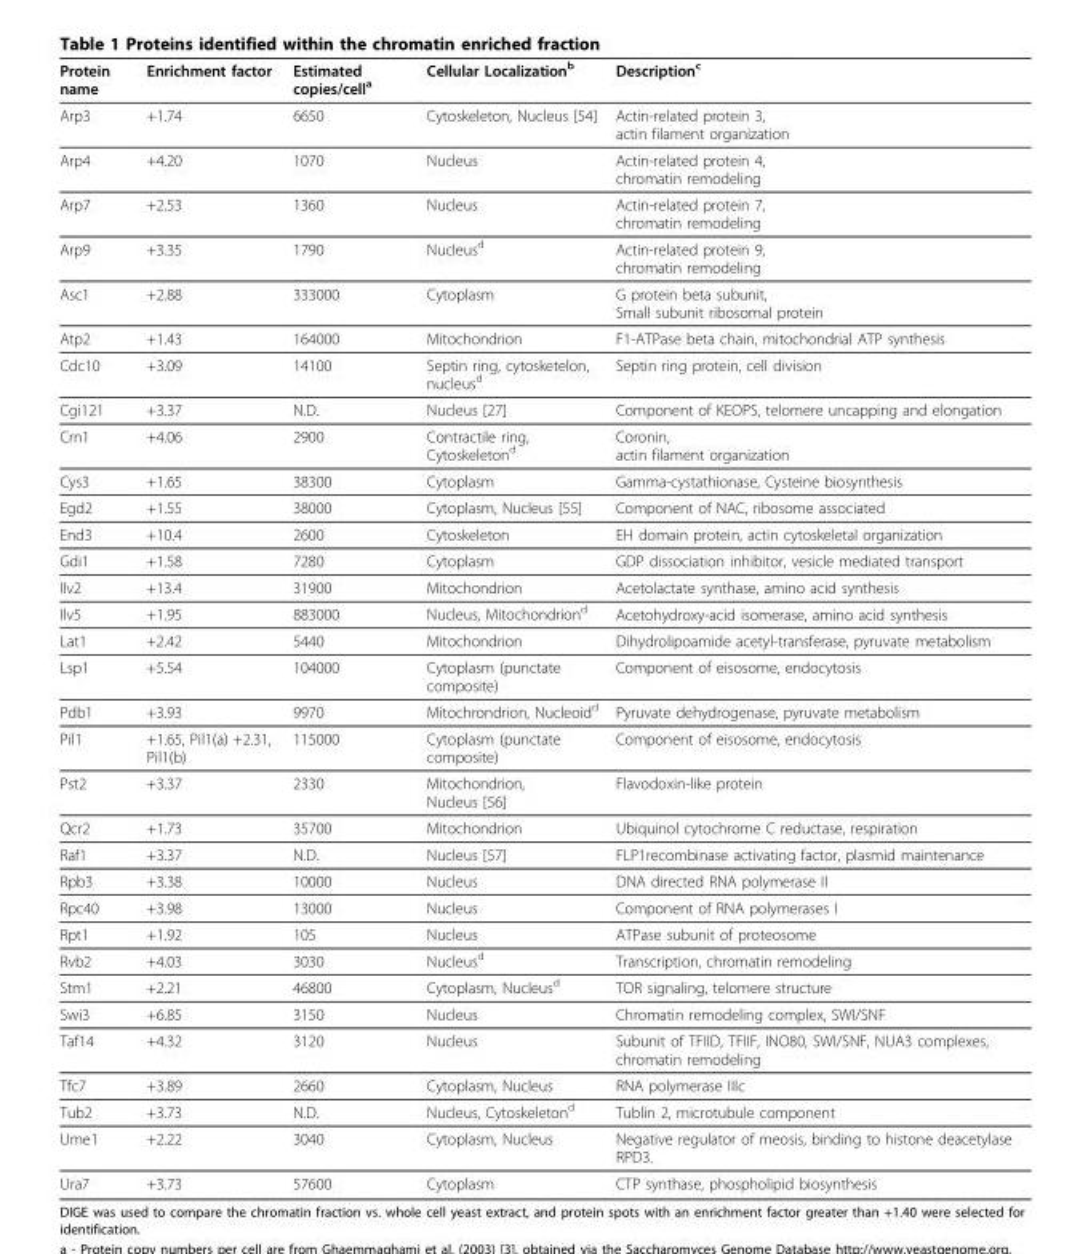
<table><thead><tr><td>Protein name</td><td>Enrichment factor</td><td>Estimated copies/cell<sup>a</sup></td><td>Cellular Localization<sup>b</sup></td><td>Description<sup>c</sup></td></tr></thead><tbody><tr><td>Arp3</td><td>+1.74</td><td>6650</td><td>Cytoskeleton, Nucleus [54]</td><td>Actin-related protein 3, actin filament organization</td></tr><tr><td>Arp4</td><td>+4.20</td><td>1070</td><td>Nucleus</td><td>Actin-related protein 4, chromatin remodeling</td></tr><tr><td>Arp7</td><td>+2.53</td><td>1360</td><td>Nucleus</td><td>Actin-related protein 7, chromatin remodeling</td></tr><tr><td>Arp9</td><td>+3.35</td><td>1790</td><td>Nucleus<sup>d</sup></td><td>Actin-related protein 9, chromatin remodeling</td></tr><tr><td>Asc1</td><td>+2.88</td><td>333000</td><td>Cytoplasm</td><td>G protein beta subunit, Small subunit ribosomal protein</td></tr><tr><td>Atp2</td><td>+1.43</td><td>164000</td><td>Mitochondrion</td><td>F1-ATPase beta chain, mitochondrial ATP synthesis</td></tr><tr><td>Cdc10</td><td>+3.09</td><td>14100</td><td>Septin ring, cytosketelon, nucleus<sup>d</sup></td><td>Septin ring protein, cell division</td></tr><tr><td>Cgi121</td><td>+3.37</td><td>N.D.</td><td>Nucleus [27]</td><td>Component of KEOPS, telomere uncapping and elongation</td></tr><tr><td>Crn1</td><td>+4.06</td><td>2900</td><td>Contractile ring, Cytoskeleton<sup>d</sup></td><td>Coronin, actin filament organization</td></tr><tr><td>Cys3</td><td>+1.65</td><td>38300</td><td>Cytoplasm</td><td>Gamma-cystathionase, Cysteine biosynthesis</td></tr><tr><td>Egd2</td><td>+1.55</td><td>38000</td><td>Cytoplasm, Nucleus [55]</td><td>Component of NAC, ribosome associated</td></tr><tr><td>End3</td><td>+10.4</td><td>2600</td><td>Cytoskeleton</td><td>EH domain protein, actin cytoskeletal organization</td></tr><tr><td>Gdi1</td><td>+1.58</td><td>7280</td><td>Cytoplasm</td><td>GDP dissociation inhibitor, vesicle mediated transport</td></tr><tr><td>Ilv2</td><td>+13.4</td><td>31900</td><td>Mitochondrion</td><td>Acetolactate synthase, amino acid synthesis</td></tr><tr><td>Ilv5</td><td>+1.95</td><td>883000</td><td>Nucleus, Mitochondrion<sup>d</sup></td><td>Acetohydroxy-acid isomerase, amino acid synthesis</td></tr><tr><td>Lat1</td><td>+2.42</td><td>5440</td><td>Mitochondrion</td><td>Dihydrolipoamide acetyl-transferase, pyruvate metabolism</td></tr><tr><td>Lsp1</td><td>+5.54</td><td>104000</td><td>Cytoplasm (punctate composite)</td><td>Component of eisosome, endocytosis</td></tr><tr><td>Pdb1</td><td>+3.93</td><td>9970</td><td>Mitochrondrion, Nucleoid<sup>d</sup></td><td>Pyruvate dehydrogenase, pyruvate metabolism</td></tr><tr><td>Pil1</td><td>+1.65, Pil1(a) +2.31, Pil1(b)</td><td>115000</td><td>Cytoplasm (punctate composite)</td><td>Component of eisosome, endocytosis</td></tr><tr><td>Pst2</td><td>+3.37</td><td>2330</td><td>Mitochondrion, Nucleus [56]</td><td>Flavodoxin-like protein</td></tr><tr><td>Qcr2</td><td>+1.73</td><td>35700</td><td>Mitochondrion</td><td>Ubiquinol cytochrome C reductase, respiration</td></tr><tr><td>Raf1</td><td>+3.37</td><td>N.D.</td><td>Nucleus [57]</td><td>FLP1recombinase activating factor, plasmid maintenance</td></tr><tr><td>Rpb3</td><td>+3.38</td><td>10000</td><td>Nucleus</td><td>DNA directed RNA polymerase II</td></tr><tr><td>Rpc40</td><td>+3.98</td><td>13000</td><td>Nucleus</td><td>Component of RNA polymerases I</td></tr><tr><td>Rpt1</td><td>+1.92</td><td>105</td><td>Nucleus</td><td>ATPase subunit of proteosome</td></tr><tr><td>Rvb2</td><td>+4.03</td><td>3030</td><td>Nucleus<sup>d</sup></td><td>Transcription, chromatin remodeling</td></tr><tr><td>Stm1</td><td>+2.21</td><td>46800</td><td>Cytoplasm, Nucleus<sup>d</sup></td><td>TOR signaling, telomere structure</td></tr><tr><td>Swi3</td><td>+6.85</td><td>3150</td><td>Nucleus</td><td>Chromatin remodeling complex, SWI/SNF</td></tr><tr><td>Taf14</td><td>+4.32</td><td>3120</td><td>Nucleus</td><td>Subunit of TFIID, TFIIF, INO80, SWI/SNF, NUA3 complexes, chromatin remodeling</td></tr><tr><td>Tfc7</td><td>+3.89</td><td>2660</td><td>Cytoplasm, Nucleus</td><td>RNA polymerase IIIc</td></tr><tr><td>Tub2</td><td>+3.73</td><td>N.D.</td><td>Nucleus, Cytoskeleton<sup>d</sup></td><td>Tublin 2, microtubule component</td></tr><tr><td>Ume1</td><td>+2.22</td><td>3040</td><td>Cytoplasm, Nucleus</td><td>Negative regulator of meosis, binding to histone deacetylase RPD3.</td></tr><tr><td>Ura7</td><td>+3.73</td><td>57600</td><td>Cytoplasm</td><td>CTP synthase, phospholipid biosynthesis</td></tr></tbody></table>